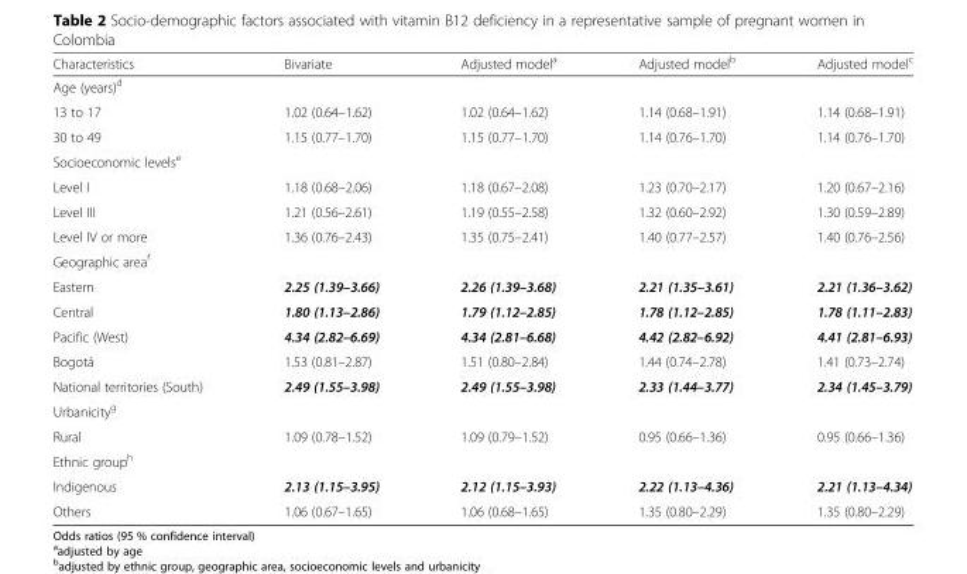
<table><thead><tr><td>Characteristics</td><td>Bivariate</td><td>Adjusted model<sup>a</sup></td><td>Adjusted model<sup>b</sup></td><td>Adjusted model<sup>c</sup></td></tr></thead><tbody><tr><td colspan="5">Age (years)<sup>d</sup></td></tr><tr><td>13 to 17</td><td>1.02 (0.64–1.62)</td><td>1.02 (0.64–1.62)</td><td>1.14 (0.68–1.91)</td><td>1.14 (0.68–1.91)</td></tr><tr><td>30 to 49</td><td>1.15 (0.77–1.70)</td><td>1.15 (0.77–1.70)</td><td>1.14 (0.76–1.70)</td><td>1.14 (0.76–1.70)</td></tr><tr><td colspan="5">Socioeconomic levels<sup>e</sup></td></tr><tr><td>Level I</td><td>1.18 (0.68–2.06)</td><td>1.18 (0.67–2.08)</td><td>1.23 (0.70–2.17)</td><td>1.20 (0.67–2.16)</td></tr><tr><td>Level III</td><td>1.21 (0.56–2.61)</td><td>1.19 (0.55–2.58)</td><td>1.32 (0.60–2.92)</td><td>1.30 (0.59–2.89)</td></tr><tr><td>Level IV or more</td><td>1.36 (0.76–2.43)</td><td>1.35 (0.75–2.41)</td><td>1.40 (0.77–2.57)</td><td>1.40 (0.76–2.56)</td></tr><tr><td colspan="5">Geographic area<sup>f</sup></td></tr><tr><td>Eastern</td><td>2.25 (1.39–3.66)</td><td>2.26 (1.39–3.68)</td><td>2.21 (1.35–3.61)</td><td>2.21 (1.36–3.62)</td></tr><tr><td>Central</td><td>1.80 (1.13–2.86)</td><td>1.79 (1.12–2.85)</td><td>1.78 (1.12–2.85)</td><td>1.78 (1.11–2.83)</td></tr><tr><td>Pacific (West)</td><td>4.34 (2.82–6.69)</td><td>4.34 (2.81–6.68)</td><td>4.42 (2.82–6.92)</td><td>4.41 (2.81–6.93)</td></tr><tr><td>Bogotá</td><td>1.53 (0.81–2.87)</td><td>1.51 (0.80–2.84)</td><td>1.44 (0.74–2.78)</td><td>1.41 (0.73–2.74)</td></tr><tr><td>National territories (South)</td><td>2.49 (1.55–3.98)</td><td>2.49 (1.55–3.98)</td><td>2.33 (1.44–3.77)</td><td>2.34 (1.45–3.79)</td></tr><tr><td colspan="5">Urbanicity<sup>g</sup></td></tr><tr><td>Rural</td><td>1.09 (0.78–1.52)</td><td>1.09 (0.79–1.52)</td><td>0.95 (0.66–1.36)</td><td>0.95 (0.66–1.36)</td></tr><tr><td colspan="5">Ethnic group<sup>h</sup></td></tr><tr><td>Indigenous</td><td>2.13 (1.15–3.95)</td><td>2.12 (1.15–3.93)</td><td>2.22 (1.13–4.36)</td><td>2.21 (1.13–4.34)</td></tr><tr><td>Others</td><td>1.06 (0.67–1.65)</td><td>1.06 (0.68–1.65)</td><td>1.35 (0.80–2.29)</td><td>1.35 (0.80–2.29)</td></tr></tbody></table>